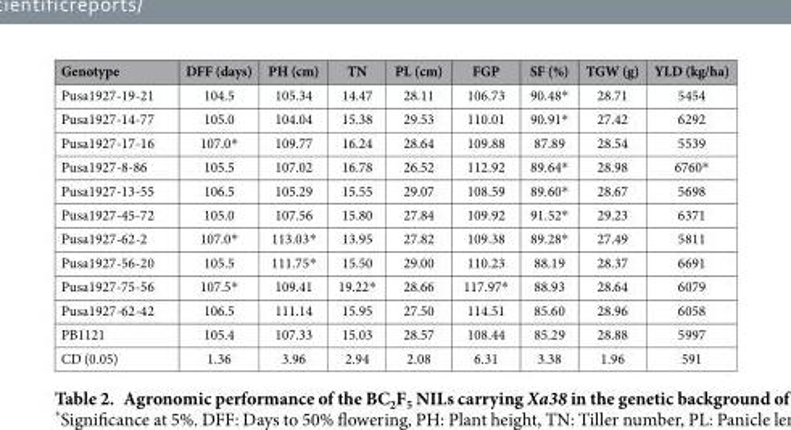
<table><thead><tr><td>Genotype</td><td>DFF (days)</td><td>PH (cm)</td><td>TN</td><td>PL (cm)</td><td>FGP</td><td>SF (%)</td><td>TGW (g)</td><td>YLD (kg/ha)</td></tr></thead><tbody><tr><td>Pusa1927-19-21</td><td>104.5</td><td>105.34</td><td>14.47</td><td>28.11</td><td>106.73</td><td>90.48*</td><td>28.71</td><td>5454</td></tr><tr><td>Pusa1927-14-77</td><td>105.0</td><td>104.04</td><td>15.38</td><td>29.53</td><td>110.01</td><td>90.91*</td><td>27.42</td><td>6292</td></tr><tr><td>Pusa1927-17-16</td><td>107.0*</td><td>109.77</td><td>16.24</td><td>28.64</td><td>109.88</td><td>87.89</td><td>28.54</td><td>5539</td></tr><tr><td>Pusa1927-8-86</td><td>105.5</td><td>107.02</td><td>16.78</td><td>26.52</td><td>112.92</td><td>89.64*</td><td>28.98</td><td>6760*</td></tr><tr><td>Pusa1927-13-55</td><td>106.5</td><td>105.29</td><td>15.55</td><td>29.07</td><td>108.59</td><td>89.60*</td><td>28.67</td><td>5698</td></tr><tr><td>Pusa1927-45-72</td><td>105.0</td><td>107.56</td><td>15.80</td><td>27.84</td><td>109.92</td><td>91.52*</td><td>29.23</td><td>6371</td></tr><tr><td>Pusa1927-62-2</td><td>107.0*</td><td>113.03*</td><td>13.95</td><td>27.82</td><td>109.38</td><td>89.28*</td><td>27.49</td><td>5811</td></tr><tr><td>Pusa1927-56-20</td><td>105.5</td><td>111.75*</td><td>15.50</td><td>29.00</td><td>110.23</td><td>88.19</td><td>28.37</td><td>6691</td></tr><tr><td>Pusa1927-75-56</td><td>107.5*</td><td>109.41</td><td>19.22*</td><td>28.66</td><td>117.97*</td><td>88.93</td><td>28.64</td><td>6079</td></tr><tr><td>Pusa1927-62-42</td><td>106.5</td><td>111.14</td><td>15.95</td><td>27.50</td><td>114.51</td><td>85.60</td><td>28.96</td><td>6058</td></tr><tr><td>PB1121</td><td>105.4</td><td>107.33</td><td>15.03</td><td>28.57</td><td>108.44</td><td>85.29</td><td>28.88</td><td>5997</td></tr><tr><td>CD (0.05)</td><td>1.36</td><td>3.96</td><td>2.94</td><td>2.08</td><td>6.31</td><td>3.38</td><td>1.96</td><td>591</td></tr></tbody></table>